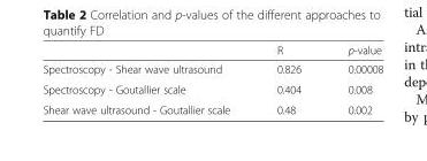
<table><thead><tr><td></td><td>R</td><td>p-value</td></tr></thead><tbody><tr><td>Spectroscopy - Shear wave ultrasound</td><td>0.826</td><td>0.00008</td></tr><tr><td>Spectroscopy - Goutallier scale</td><td>0.404</td><td>0.008</td></tr><tr><td>Shear wave ultrasound - Goutallier scale</td><td>0.48</td><td>0.002</td></tr></tbody></table>